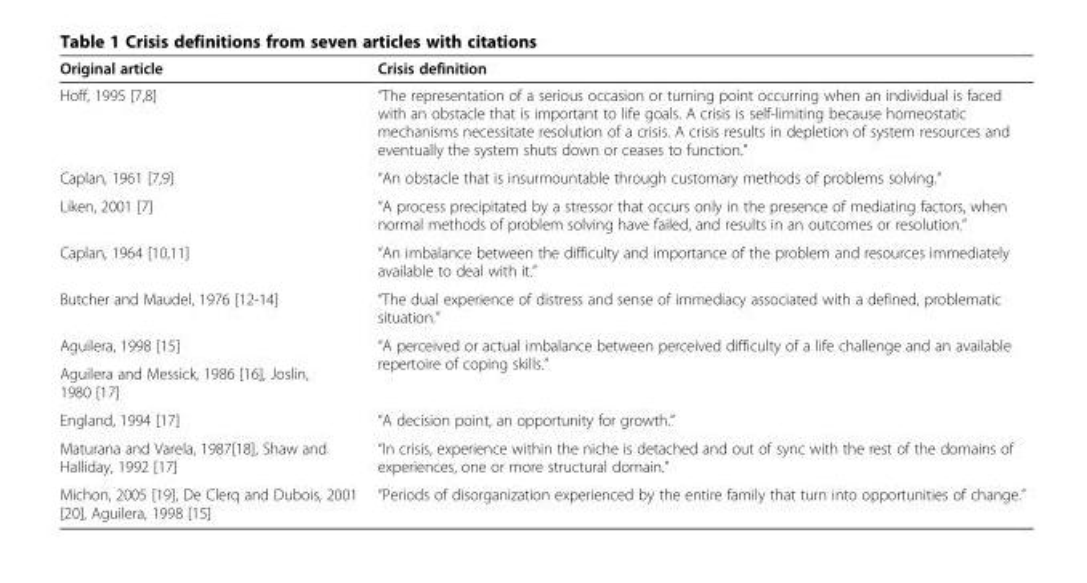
<table><thead><tr><td>Original article</td><td>Crisis definition</td></tr></thead><tbody><tr><td>Hoff, 1995 [7,8]</td><td>“The representation of a serious occasion or turning point occurring when an individual is faced with an obstacle that is important to life goals. A crisis is self-limiting because homeostatic mechanisms necessitate resolution of a crisis. A crisis results in depletion of system resources and eventually the system shuts down or ceases to function.”</td></tr><tr><td>Caplan, 1961 [7,9]</td><td>“An obstacle that is insurmountable through customary methods of problems solving.”</td></tr><tr><td>Liken, 2001 [7]</td><td>“A process precipitated by a stressor that occurs only in the presence of mediating factors, when normal methods of problem solving have failed, and results in an outcomes or resolution.”</td></tr><tr><td>Caplan, 1964 [10,11]</td><td>“An imbalance between the difficulty and importance of the problem and resources immediately available to deal with it.”</td></tr><tr><td>Butcher and Maudel, 1976 [12-14]</td><td>“The dual experience of distress and sense of immediacy associated with a defined, problematic situation.”</td></tr><tr><td>Aguilera, 1998 [15]</td><td rowspan="2">“A perceived or actual imbalance between perceived difficulty of a life challenge and an available repertoire of coping skills.”</td></tr><tr><td>Aguilera and Messick, 1986 [16], Joslin, 1980 [17]</td></tr><tr><td>England, 1994 [17]</td><td>“A decision point, an opportunity for growth.”</td></tr><tr><td>Maturana and Varela, 1987[18], Shaw and Halliday, 1992 [17]</td><td>“In crisis, experience within the niche is detached and out of sync with the rest of the domains of experiences, one or more structural domain.”</td></tr><tr><td>Michon, 2005 [19], De Clerq and Dubois, 2001 [20], Aguilera, 1998 [15]</td><td>“Periods of disorganization experienced by the entire family that turn into opportunities of change.”</td></tr></tbody></table>